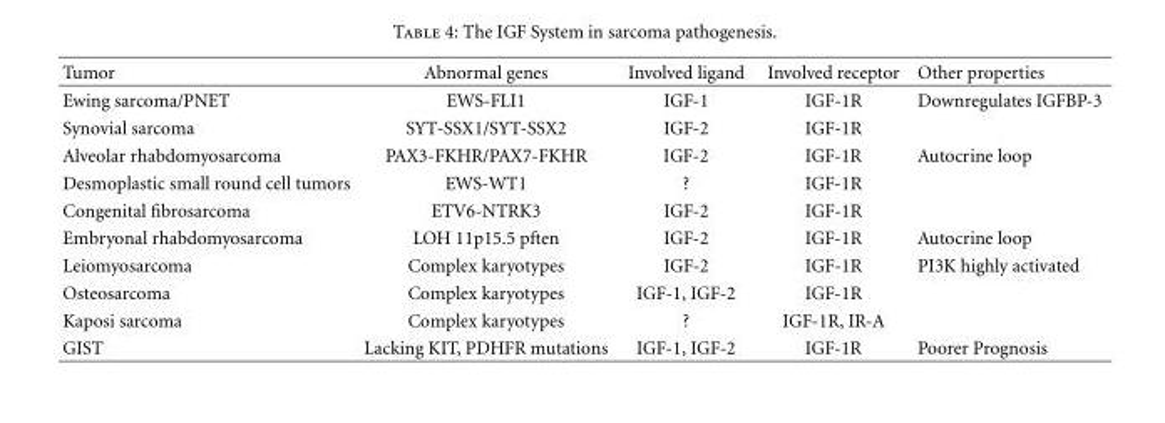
<table><thead><tr><td>Tumor</td><td>Abnormal genes</td><td>Involved ligand</td><td>Involved receptor</td><td>Other properties</td></tr></thead><tbody><tr><td>Ewing sarcoma/PNET</td><td>EWS-FLI1</td><td>IGF-1</td><td>IGF-1R</td><td>Downregulates IGFBP-3</td></tr><tr><td>Synovial sarcoma</td><td>SYT-SSX1/SYT-SSX2</td><td>IGF-2</td><td>IGF-1R</td><td></td></tr><tr><td>Alveolar rhabdomyosarcoma</td><td>PAX3-FKHR/PAX7-FKHR</td><td>IGF-2</td><td>IGF-1R</td><td>Autocrine loop</td></tr><tr><td>Desmoplastic small round cell tumors</td><td>EWS-WT1</td><td>?</td><td>IGF-1R</td><td></td></tr><tr><td>Congenital fibrosarcoma</td><td>ETV6-NTRK3</td><td>IGF-2</td><td>IGF-1R</td><td></td></tr><tr><td>Embryonal rhabdomyosarcoma</td><td>LOH 11p15.5 pften</td><td>IGF-2</td><td>IGF-1R</td><td>Autocrine loop</td></tr><tr><td>Leiomyosarcoma</td><td>Complex karyotypes</td><td>IGF-2</td><td>IGF-1R</td><td>PI3K highly activated</td></tr><tr><td>Osteosarcoma</td><td>Complex karyotypes</td><td>IGF-1, IGF-2</td><td>IGF-1R</td><td></td></tr><tr><td>Kaposi sarcoma</td><td>Complex karyotypes</td><td>?</td><td>IGF-1R, IR-A</td><td></td></tr><tr><td>GIST</td><td>Lacking KIT, PDHFR mutations</td><td>IGF-1, IGF-2</td><td>IGF-1R</td><td>Poorer Prognosis</td></tr></tbody></table>